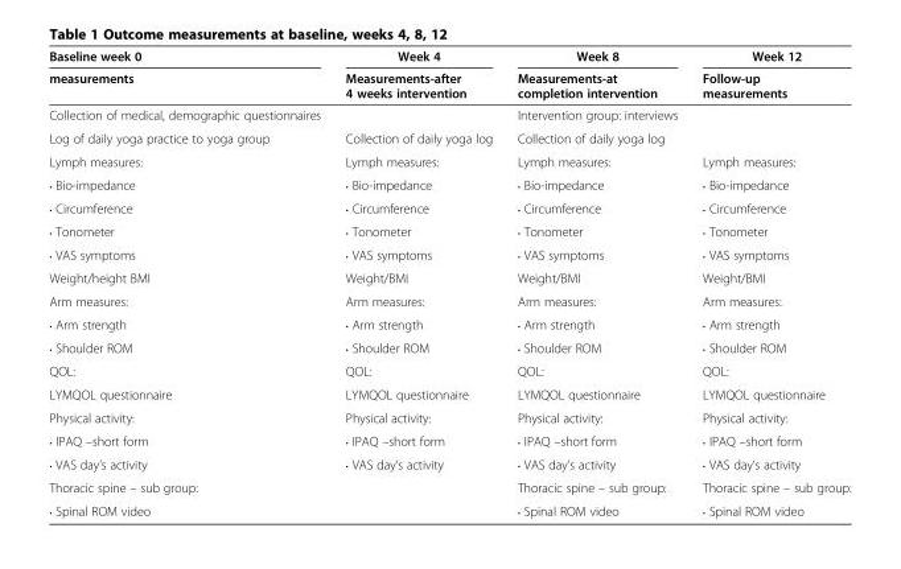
<table><thead><tr><td rowspan="2">Baseline week 0 measurements</td><td rowspan="2">Week 4 Measurements-after 4 weeks intervention</td><td rowspan="2">Week 8 Measurements-at completion intervention</td><td rowspan="2">Week 12 Follow-up measurements</td></tr><tr></tr></thead><tbody><tr><td>Collection of medical, demographic questionnaires</td><td></td><td>Intervention group: interviews</td><td></td></tr><tr><td>Log of daily yoga practice to yoga group</td><td>Collection of daily yoga log</td><td>Collection of daily yoga log</td><td></td></tr><tr><td>Lymph measures:</td><td>Lymph measures:</td><td>Lymph measures:</td><td>Lymph measures:</td></tr><tr><td>• Bio-impedance</td><td>• Bio-impedance</td><td>• Bio-impedance</td><td>• Bio-impedance</td></tr><tr><td>• Circumference</td><td>• Circumference</td><td>• Circumference</td><td>• Circumference</td></tr><tr><td>• Tonometer</td><td>• Tonometer</td><td>• Tonometer</td><td>• Tonometer</td></tr><tr><td>• VAS symptoms</td><td>• VAS symptoms</td><td>• VAS symptoms</td><td>• VAS symptoms</td></tr><tr><td>Weight/height BMI</td><td>Weight/BMI</td><td>Weight/BMI</td><td>Weight/BMI</td></tr><tr><td>Arm measures:</td><td>Arm measures:</td><td>Arm measures:</td><td>Arm measures:</td></tr><tr><td>• Arm strength</td><td>• Arm strength</td><td>• Arm strength</td><td>• Arm strength</td></tr><tr><td>• Shoulder ROM</td><td>• Shoulder ROM</td><td>• Shoulder ROM</td><td>• Shoulder ROM</td></tr><tr><td>QOL:</td><td>QOL:</td><td>QOL:</td><td>QOL:</td></tr><tr><td>LYMQOL questionnaire</td><td>LYMQOL questionnaire</td><td>LYMQOL questionnaire</td><td>LYMQOL questionnaire</td></tr><tr><td>Physical activity:</td><td>Physical activity:</td><td>Physical activity:</td><td>Physical activity:</td></tr><tr><td>• IPAQ –short form</td><td>• IPAQ –short form</td><td>• IPAQ –short form</td><td>• IPAQ –short form</td></tr><tr><td>• VAS day’s activity</td><td>• VAS day’s activity</td><td>• VAS day’s activity</td><td>• VAS day’s activity</td></tr><tr><td>Thoracic spine – sub group:</td><td></td><td>Thoracic spine – sub group:</td><td>Thoracic spine – sub group:</td></tr><tr><td>• Spinal ROM video</td><td></td><td>• Spinal ROM video</td><td>• Spinal ROM video</td></tr></tbody></table>